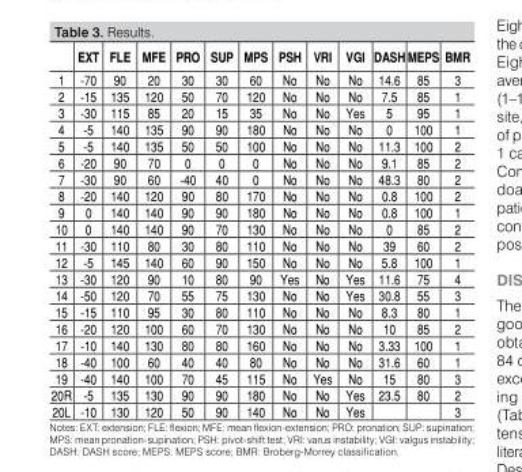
<table><thead><tr><td></td><td>EXT</td><td>FLE</td><td>MFE</td><td>PRO</td><td>SUP</td><td>MPS</td><td>PSH</td><td>VRI</td><td>VGI</td><td>DASH</td><td>MEPS</td><td>BMR</td></tr></thead><tbody><tr><td>1</td><td>-70</td><td>90</td><td>20</td><td>30</td><td>30</td><td>60</td><td>No</td><td>No</td><td>No</td><td>14.6</td><td>85</td><td>3</td></tr><tr><td>2</td><td>-15</td><td>135</td><td>120</td><td>50</td><td>70</td><td>120</td><td>No</td><td>No</td><td>No</td><td>7.5</td><td>85</td><td>1</td></tr><tr><td>3</td><td>-30</td><td>115</td><td>85</td><td>20</td><td>15</td><td>35</td><td>No</td><td>No</td><td>Yes</td><td>5</td><td>95</td><td>1</td></tr><tr><td>4</td><td>-5</td><td>140</td><td>135</td><td>90</td><td>90</td><td>180</td><td>No</td><td>No</td><td>No</td><td>0</td><td>100</td><td>1</td></tr><tr><td>5</td><td>-5</td><td>140</td><td>135</td><td>50</td><td>50</td><td>100</td><td>No</td><td>No</td><td>No</td><td>11.3</td><td>100</td><td>2</td></tr><tr><td>6</td><td>-20</td><td>90</td><td>70</td><td>0</td><td>0</td><td>0</td><td>No</td><td>No</td><td>No</td><td>9.1</td><td>85</td><td>2</td></tr><tr><td>7</td><td>-30</td><td>90</td><td>60</td><td>-40</td><td>40</td><td>0</td><td>No</td><td>No</td><td>No</td><td>48.3</td><td>80</td><td>2</td></tr><tr><td>8</td><td>-20</td><td>140</td><td>120</td><td>90</td><td>80</td><td>170</td><td>No</td><td>No</td><td>No</td><td>0.8</td><td>100</td><td>2</td></tr><tr><td>9</td><td>0</td><td>140</td><td>140</td><td>90</td><td>90</td><td>180</td><td>No</td><td>No</td><td>No</td><td>0.8</td><td>100</td><td>1</td></tr><tr><td>10</td><td>0</td><td>140</td><td>140</td><td>90</td><td>70</td><td>130</td><td>No</td><td>No</td><td>No</td><td>0</td><td>85</td><td>2</td></tr><tr><td>11</td><td>-30</td><td>110</td><td>80</td><td>30</td><td>80</td><td>110</td><td>No</td><td>No</td><td>No</td><td>39</td><td>60</td><td>2</td></tr><tr><td>12</td><td>-5</td><td>145</td><td>140</td><td>60</td><td>90</td><td>150</td><td>No</td><td>No</td><td>No</td><td>5.8</td><td>100</td><td>1</td></tr><tr><td>13</td><td>-30</td><td>120</td><td>90</td><td>10</td><td>80</td><td>90</td><td>Yes</td><td>No</td><td>Yes</td><td>11.6</td><td>75</td><td>4</td></tr><tr><td>14</td><td>-50</td><td>120</td><td>70</td><td>55</td><td>75</td><td>130</td><td>No</td><td>No</td><td>Yes</td><td>30.8</td><td>55</td><td>3</td></tr><tr><td>15</td><td>-15</td><td>110</td><td>95</td><td>30</td><td>80</td><td>110</td><td>No</td><td>No</td><td>No</td><td>8.3</td><td>80</td><td>1</td></tr><tr><td>16</td><td>-20</td><td>120</td><td>100</td><td>60</td><td>70</td><td>130</td><td>No</td><td>No</td><td>No</td><td>10</td><td>85</td><td>2</td></tr><tr><td>17</td><td>-10</td><td>140</td><td>130</td><td>80</td><td>80</td><td>160</td><td>No</td><td>No</td><td>No</td><td>3.33</td><td>100</td><td>1</td></tr><tr><td>18</td><td>-40</td><td>100</td><td>60</td><td>40</td><td>40</td><td>80</td><td>No</td><td>No</td><td>No</td><td>31.6</td><td>60</td><td>1</td></tr><tr><td>19</td><td>-40</td><td>140</td><td>100</td><td>70</td><td>45</td><td>115</td><td>No</td><td>Yes</td><td>No</td><td>15</td><td>80</td><td>3</td></tr><tr><td>20R</td><td>-5</td><td>135</td><td>130</td><td>90</td><td>90</td><td>180</td><td>No</td><td>No</td><td>Yes</td><td>23.5</td><td>80</td><td>2</td></tr><tr><td>20L</td><td>-10</td><td>130</td><td>120</td><td>50</td><td>90</td><td>140</td><td>No</td><td>No</td><td>Yes</td><td></td><td></td><td>3</td></tr></tbody></table>